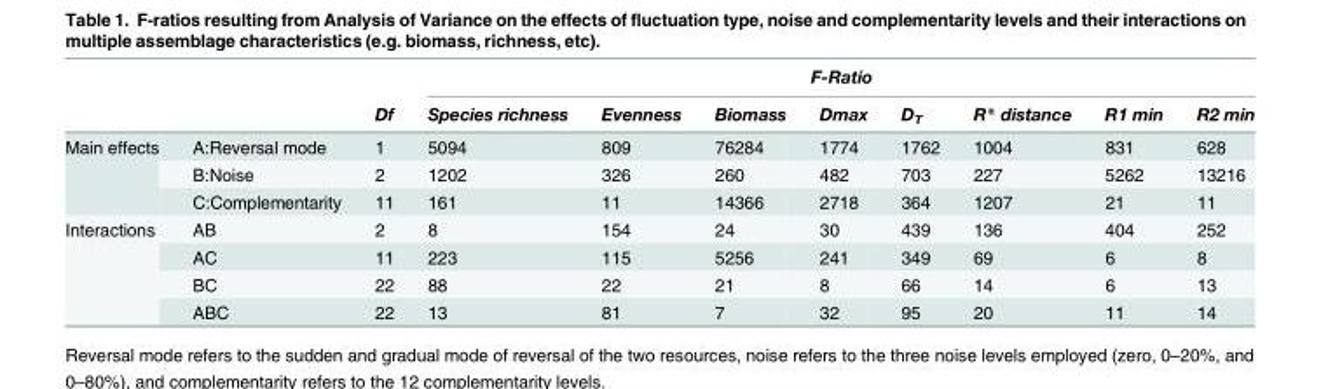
<table><thead><tr><td rowspan="2"></td><td rowspan="2"></td><td rowspan="2">Df</td><td colspan="8">F-Ratio</td></tr><tr><td>Species richness</td><td>Evenness</td><td>Biomass</td><td>Dmax</td><td>D<sub>T</sub></td><td>R* distance</td><td>R1 min</td><td>R2 min</td></tr></thead><tbody><tr><td rowspan="3">Main effects</td><td>A:Reversal mode</td><td>1</td><td>5094</td><td>809</td><td>76284</td><td>1774</td><td>1762</td><td>1004</td><td>831</td><td>628</td></tr><tr><td>B:Noise</td><td>2</td><td>1202</td><td>326</td><td>260</td><td>482</td><td>703</td><td>227</td><td>5262</td><td>13216</td></tr><tr><td>C:Complementarity</td><td>11</td><td>161</td><td>11</td><td>14366</td><td>2718</td><td>364</td><td>1207</td><td>21</td><td>11</td></tr><tr><td rowspan="4">Interactions</td><td>AB</td><td>2</td><td>8</td><td>154</td><td>24</td><td>30</td><td>439</td><td>136</td><td>404</td><td>252</td></tr><tr><td>AC</td><td>11</td><td>223</td><td>115</td><td>5256</td><td>241</td><td>349</td><td>69</td><td>6</td><td>8</td></tr><tr><td>BC</td><td>22</td><td>88</td><td>22</td><td>21</td><td>8</td><td>66</td><td>14</td><td>6</td><td>13</td></tr><tr><td>ABC</td><td>22</td><td>13</td><td>81</td><td>7</td><td>32</td><td>95</td><td>20</td><td>11</td><td>14</td></tr></tbody></table>